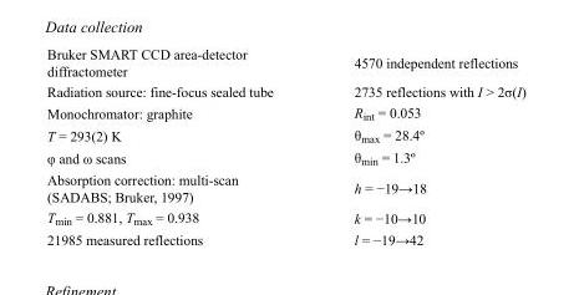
<table><tbody><tr><td>Bruker SMART CCD area-detector diffractometer</td><td>4570 independent reflections</td></tr><tr><td>Radiation source: fine-focus sealed tube</td><td>2735 reflections with I &gt; 2σ(I)</td></tr><tr><td>Monochromator: graphite</td><td>R<sub>int</sub> = 0.053</td></tr><tr><td>T = 293(2) K</td><td>θ<sub>max</sub> = 28.4º</td></tr><tr><td>φ and ω scans</td><td>θ<sub>min</sub> = 1.3º</td></tr><tr><td>Absorption correction: multi-scan (SADABS; Bruker, 1997)</td><td>h = −19→18</td></tr><tr><td>T<sub>min</sub> = 0.881, T<sub>max</sub> = 0.938</td><td>k = −10→10</td></tr><tr><td>21985 measured reflections</td><td>l = −19→42</td></tr></tbody></table>